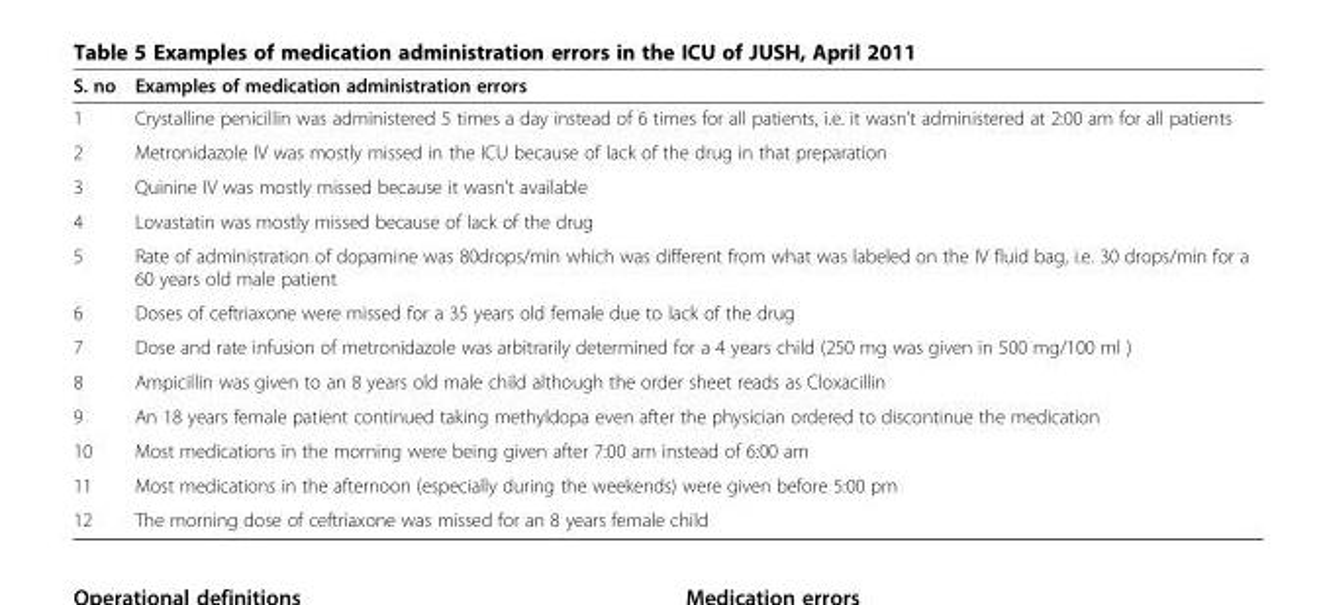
<table><thead><tr><td>S. no</td><td>Examples of medication administration errors</td></tr></thead><tbody><tr><td>1</td><td>Crystalline penicillin was administered 5 times a day instead of 6 times for all patients, i.e. it wasn’t administered at 2:00 am for all patients</td></tr><tr><td>2</td><td>Metronidazole IV was mostly missed in the ICU because of lack of the drug in that preparation</td></tr><tr><td>3</td><td>Quinine IV was mostly missed because it wasn’t available</td></tr><tr><td>4</td><td>Lovastatin was mostly missed because of lack of the drug</td></tr><tr><td>5</td><td>Rate of administration of dopamine was 80drops/min which was different from what was labeled on the IV fluid bag, i.e. 30 drops/min for a 60 years old male patient</td></tr><tr><td>6</td><td>Doses of ceftriaxone were missed for a 35 years old female due to lack of the drug</td></tr><tr><td>7</td><td>Dose and rate infusion of metronidazole was arbitrarily determined for a 4 years child (250 mg was given in 500 mg/100 ml )</td></tr><tr><td>8</td><td>Ampicillin was given to an 8 years old male child although the order sheet reads as Cloxacillin</td></tr><tr><td>9</td><td>An 18 years female patient continued taking methyldopa even after the physician ordered to discontinue the medication</td></tr><tr><td>10</td><td>Most medications in the morning were being given after 7:00 am instead of 6:00 am</td></tr><tr><td>11</td><td>Most medications in the afternoon (especially during the weekends) were given before 5:00 pm</td></tr><tr><td>12</td><td>The morning dose of ceftriaxone was missed for an 8 years female child</td></tr></tbody></table>